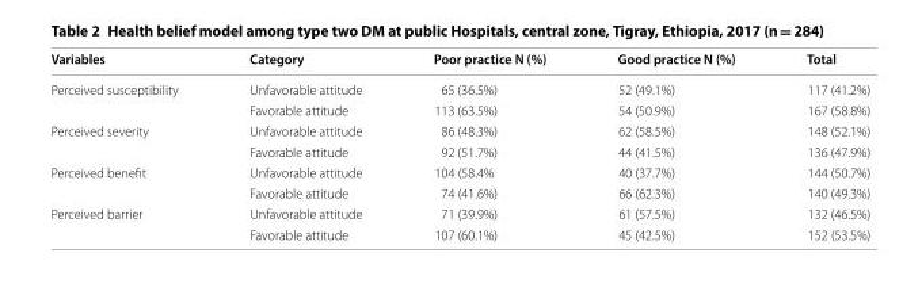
<table><thead><tr><td>Variables</td><td>Category</td><td>Poor practice N (%)</td><td>Good practice N (%)</td><td>Total</td></tr></thead><tbody><tr><td rowspan="2">Perceived susceptibility</td><td>Unfavorable attitude</td><td>65 (36.5%)</td><td>52 (49.1%)</td><td>117 (41.2%)</td></tr><tr><td>Favorable attitude</td><td>113 (63.5%)</td><td>54 (50.9%)</td><td>167 (58.8%)</td></tr><tr><td rowspan="2">Perceived severity</td><td>Unfavorable attitude</td><td>86 (48.3%)</td><td>62 (58.5%)</td><td>148 (52.1%)</td></tr><tr><td>Favorable attitude</td><td>92 (51.7%)</td><td>44 (41.5%)</td><td>136 (47.9%)</td></tr><tr><td rowspan="2">Perceived benefit</td><td>Unfavorable attitude</td><td>104 (58.4%</td><td>40 (37.7%)</td><td>144 (50.7%)</td></tr><tr><td>Favorable attitude</td><td>74 (41.6%)</td><td>66 (62.3%)</td><td>140 (49.3%)</td></tr><tr><td rowspan="2">Perceived barrier</td><td>Unfavorable attitude</td><td>71 (39.9%)</td><td>61 (57.5%)</td><td>132 (46.5%)</td></tr><tr><td>Favorable attitude</td><td>107 (60.1%)</td><td>45 (42.5%)</td><td>152 (53.5%)</td></tr></tbody></table>